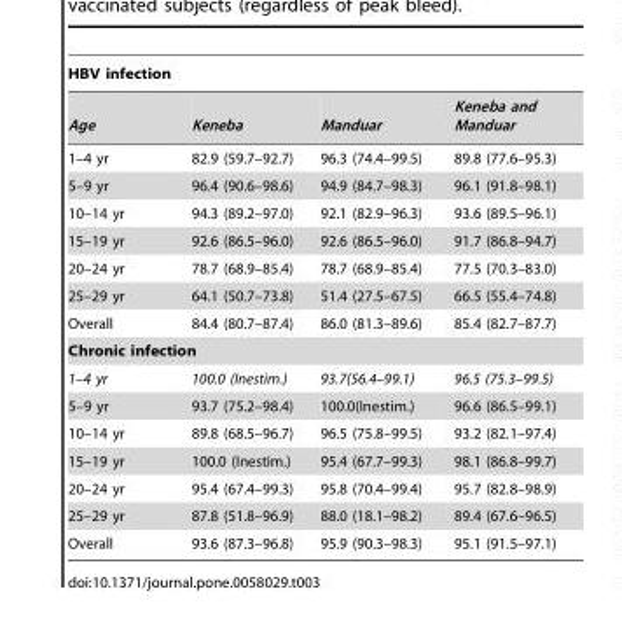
<table><thead><tr><td colspan="4">HBV infection</td></tr><tr><td>Age</td><td>Keneba</td><td>Manduar</td><td>Keneba and Manduar</td></tr></thead><tbody><tr><td>1–4 yr</td><td>82.9 (59.7–92.7)</td><td>96.3 (74.4–99.5)</td><td>89.8 (77.6–95.3)</td></tr><tr><td>5–9 yr</td><td>96.4 (90.6–98.6)</td><td>94.9 (84.7–98.3)</td><td>96.1 (91.8–98.1)</td></tr><tr><td>10–14 yr</td><td>94.3 (89.2–97.0)</td><td>92.1 (82.9–96.3)</td><td>93.6 (89.5–96.1)</td></tr><tr><td>15–19 yr</td><td>92.6 (86.5–96.0)</td><td>92.6 (86.5–96.0)</td><td>91.7 (86.8–94.7)</td></tr><tr><td>20–24 yr</td><td>78.7 (68.9–85.4)</td><td>78.7 (68.9–85.4)</td><td>77.5 (70.3–83.0)</td></tr><tr><td>25–29 yr</td><td>64.1 (50.7–73.8)</td><td>51.4 (27.5–67.5)</td><td>66.5 (55.4–74.8)</td></tr><tr><td>Overall</td><td>84.4 (80.7–87.4)</td><td>86.0 (81.3–89.6)</td><td>85.4 (82.7–87.7)</td></tr><tr><td colspan="4">Chronic infection</td></tr><tr><td>1–4 yr</td><td>100.0 (Inestim.)</td><td>93.7(56.4–99.1)</td><td>96.5 (75.3–99.5)</td></tr><tr><td>5–9 yr</td><td>93.7 (75.2–98.4)</td><td>100.0(Inestim.)</td><td>96.6 (86.5–99.1)</td></tr><tr><td>10–14 yr</td><td>89.8 (68.5–96.7)</td><td>96.5 (75.8–99.5)</td><td>93.2 (82.1–97.4)</td></tr><tr><td>15–19 yr</td><td>100.0 (Inestim.)</td><td>95.4 (67.7–99.3)</td><td>98.1 (86.8–99.7)</td></tr><tr><td>20–24 yr</td><td>95.4 (67.4–99.3)</td><td>95.8 (70.4–99.4)</td><td>95.7 (82.8–98.9)</td></tr><tr><td>25–29 yr</td><td>87.8 (51.8–96.9)</td><td>88.0 (18.1–98.2)</td><td>89.4 (67.6–96.5)</td></tr><tr><td>Overall</td><td>93.6 (87.3–96.8)</td><td>95.9 (90.3–98.3)</td><td>95.1 (91.5–97.1)</td></tr></tbody></table>